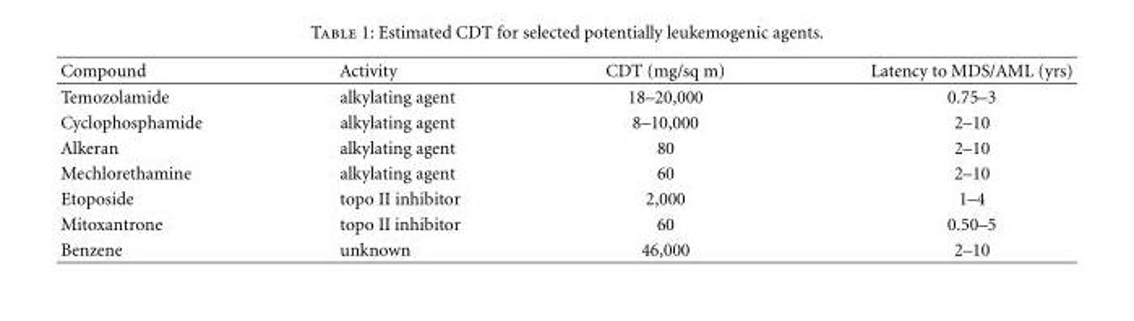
<table><thead><tr><td>Compound</td><td>Activity</td><td>CDT (mg/sq m)</td><td>Latency to MDS/AML (yrs)</td></tr></thead><tbody><tr><td>Temozolamide</td><td>alkylating agent</td><td>18–20,000</td><td>0.75–3</td></tr><tr><td>Cyclophosphamide</td><td>alkylating agent</td><td>8–10,000</td><td>2–10</td></tr><tr><td>Alkeran</td><td>alkylating agent</td><td>80</td><td>2–10</td></tr><tr><td>Mechlorethamine</td><td>alkylating agent</td><td>60</td><td>2–10</td></tr><tr><td>Etoposide</td><td>topo II inhibitor</td><td>2,000</td><td>1–4</td></tr><tr><td>Mitoxantrone</td><td>topo II inhibitor</td><td>60</td><td>0.50–5</td></tr><tr><td>Benzene</td><td>unknown</td><td>46,000</td><td>2–10</td></tr></tbody></table>